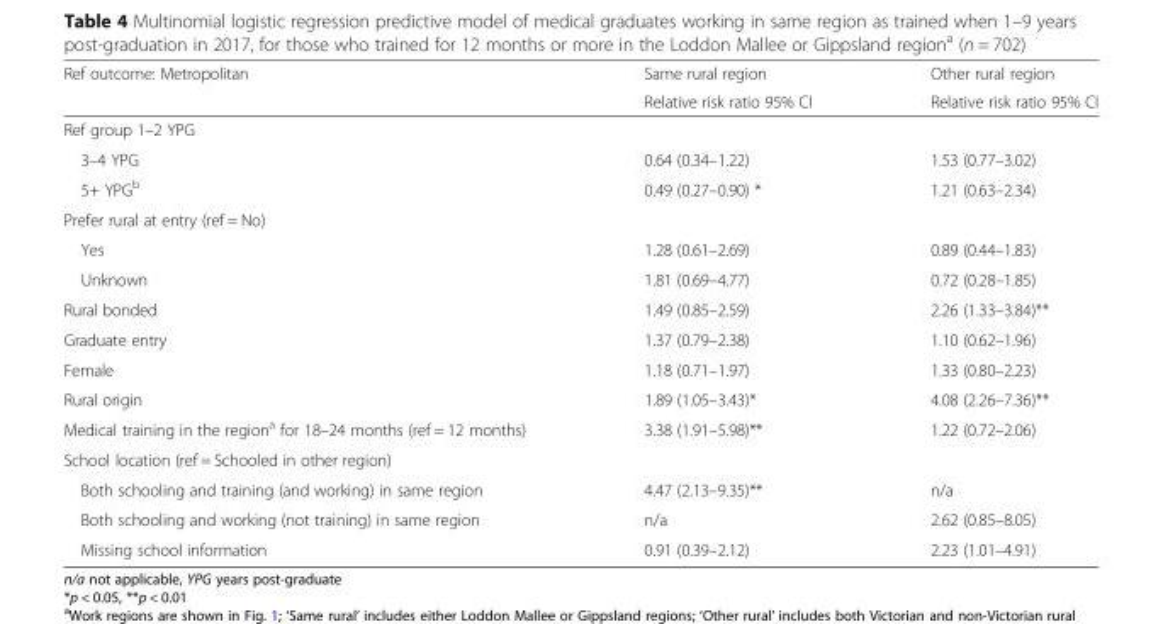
<table><thead><tr><td rowspan="2">Ref outcome: Metropolitan</td><td rowspan="2">Same rural region Relative risk ratio 95% CI</td><td rowspan="2">Other rural region Relative risk ratio 95% CI</td></tr><tr></tr></thead><tbody><tr><td colspan="3">Ref group 1–2 YPG</td></tr><tr><td>3–4 YPG</td><td>0.64 (0.34–1.22)</td><td>1.53 (0.77–3.02)</td></tr><tr><td>5+ YPG<sup>b</sup></td><td>0.49 (0.27–0.90) *</td><td>1.21 (0.63–2.34)</td></tr><tr><td colspan="3">Prefer rural at entry (ref = No)</td></tr><tr><td>Yes</td><td>1.28 (0.61–2.69)</td><td>0.89 (0.44–1.83)</td></tr><tr><td>Unknown</td><td>1.81 (0.69–4.77)</td><td>0.72 (0.28–1.85)</td></tr><tr><td>Rural bonded</td><td>1.49 (0.85–2.59)</td><td>2.26 (1.33–3.84)**</td></tr><tr><td>Graduate entry</td><td>1.37 (0.79–2.38)</td><td>1.10 (0.62–1.96)</td></tr><tr><td>Female</td><td>1.18 (0.71–1.97)</td><td>1.33 (0.80–2.23)</td></tr><tr><td>Rural origin</td><td>1.89 (1.05–3.43)*</td><td>4.08 (2.26–7.36)**</td></tr><tr><td>Medical training in the region<sup>a</sup> for 18–24 months (ref = 12 months)</td><td>3.38 (1.91–5.98)**</td><td>1.22 (0.72–2.06)</td></tr><tr><td colspan="3">School location (ref = Schooled in other region)</td></tr><tr><td>Both schooling and training (and working) in same region</td><td>4.47 (2.13–9.35)**</td><td>n/a</td></tr><tr><td>Both schooling and working (not training) in same region</td><td>n/a</td><td>2.62 (0.85–8.05)</td></tr><tr><td>Missing school information</td><td>0.91 (0.39–2.12)</td><td>2.23 (1.01–4.91)</td></tr></tbody></table>